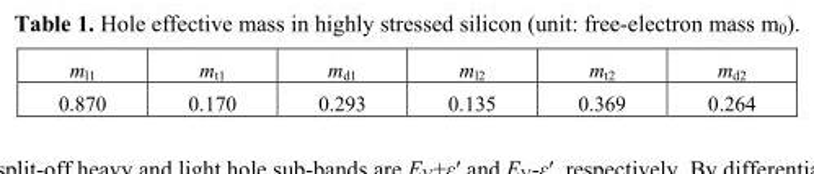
<table><thead><tr><td>m<sub>l1</sub></td><td>m<sub>t1</sub></td><td>m<sub>d1</sub></td><td>m<sub>l2</sub></td><td>m<sub>t2</sub></td><td>m<sub>d2</sub></td></tr></thead><tbody><tr><td>0.870</td><td>0.170</td><td>0.293</td><td>0.135</td><td>0.369</td><td>0.264</td></tr></tbody></table>